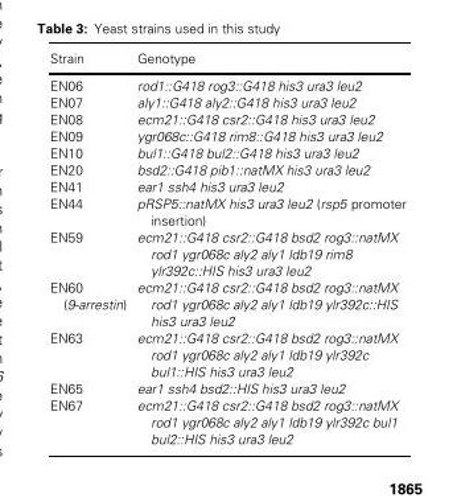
<table><thead><tr><td>Strain</td><td>Genotype</td></tr></thead><tbody><tr><td>EN06</td><td>rod1::G418 rog3::G418 his3 ura3 leu2</td></tr><tr><td>EN07</td><td>aly1::G418 aly2::G418 his3 ura3 leu2</td></tr><tr><td>EN08</td><td>ecm21::G418 csr2::G418 his3 ura3 leu2</td></tr><tr><td>EN09</td><td>ygr068c::G418 rim8::G418 his3 ura3 leu2</td></tr><tr><td>EN10</td><td>bul1::G418 bul2::G418 his3 ura3 leu2</td></tr><tr><td>EN20</td><td>bsd2::G418 pib1::natMX his3 ura3 leu2</td></tr><tr><td>EN41</td><td>ear1 ssh4 his3 ura3 leu2</td></tr><tr><td>EN44</td><td>pRSP5::natMX his3 ura3 leu2 (rsp5 promoter insertion)</td></tr><tr><td>EN59</td><td>ecm21::G418 csr2::G418 bsd2 rog3::natMX rod1 ygr068c aly2 aly1 ldb19 rim8 ylr392c::HIS his3 ura3 leu2</td></tr><tr><td>EN60 (9-arrestin)</td><td>ecm21::G418 csr2::G418 bsd2 rog3::natMX rod1 ygr068c aly2 aly1 ldb19 ylr392c::HIS his3 ura3 leu2</td></tr><tr><td>EN63</td><td>ecm21::G418 csr2::G418 bsd2 rog3::natMX rod1 ygr068c aly2 aly1 ldb19 ylr392c bul1::HIS his3 ura3 leu2</td></tr><tr><td>EN65</td><td>ear1 ssh4 bsd2::HIS his3 ura3 leu2</td></tr><tr><td>EN67</td><td>ecm21::G418 csr2::G418 bsd2 rog3::natMX rod1 ygr068c aly2 aly1 ldb19 ylr392c bul1 bul2::HIS his3 ura3 leu2</td></tr></tbody></table>